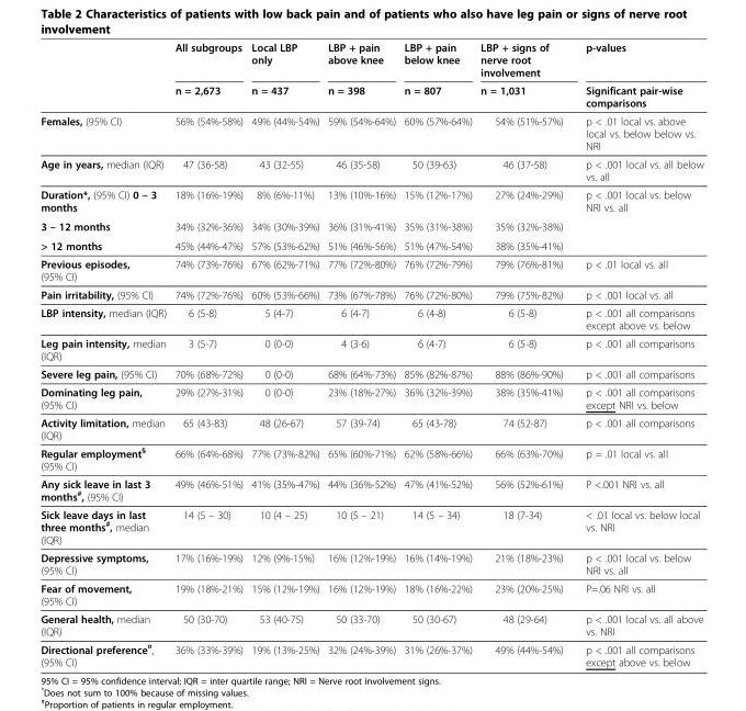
<table><thead><tr><td rowspan="2"></td><td rowspan="2">All subgroups n = 2,673</td><td rowspan="2">Local LBP only n = 437</td><td rowspan="2">LBP + pain above knee n = 398</td><td rowspan="2">LBP + pain below knee n = 807</td><td rowspan="2">LBP + signs of nerve root involvement n = 1,031</td><td rowspan="2">p-values Significant pair-wise comparisons</td></tr><tr></tr></thead><tbody><tr><td>Females, (95% CI)</td><td>56% (54%-58%)</td><td>49% (44%-54%)</td><td>59% (54%-64%)</td><td>60% (57%-64%)</td><td>54% (51%-57%)</td><td>p &lt; .01 local vs. above local vs. below below vs. NRI</td></tr><tr><td>Age in years, median (IQR)</td><td>47 (36-58)</td><td>43 (32-55)</td><td>46 (35-58)</td><td>50 (39-63)</td><td>46 (37-58)</td><td>p &lt; .001 local vs. all below vs. all</td></tr><tr><td>Duration*, (95% CI) 0 – 3 months</td><td>18% (16%-19%)</td><td>8% (6%-11%)</td><td>13% (10%-16%)</td><td>15% (12%-17%)</td><td>27% (24%-29%)</td><td>p &lt; .001 local vs. below NRI vs. all</td></tr><tr><td>3 – 12 months</td><td>34% (32%-36%)</td><td>34% (30%-39%)</td><td>36% (31%-41%)</td><td>35% (31%-38%)</td><td>35% (32%-38%)</td><td></td></tr><tr><td>&gt; 12 months</td><td>45% (44%-47%)</td><td>57% (53%-62%)</td><td>51% (46%-56%)</td><td>51% (47%-54%)</td><td>38% (35%-41%)</td><td></td></tr><tr><td>Previous episodes, (95% CI)</td><td>74% (73%-76%)</td><td>67% (62%-71%)</td><td>77% (72%-80%)</td><td>76% (72%-79%)</td><td>79% (76%-81%)</td><td>p &lt; .01 local vs. all</td></tr><tr><td>Pain irritability, (95% CI)</td><td>74% (72%-76%)</td><td>60% (53%-66%)</td><td>73% (67%-78%)</td><td>76% (72%-80%)</td><td>79% (75%-82%)</td><td>p &lt; .001 local vs. all</td></tr><tr><td>LBP intensity, median (IQR)</td><td>6 (5-8)</td><td>5 (4-7)</td><td>6 (4-7)</td><td>6 (4-8)</td><td>6 (5-8)</td><td>p &lt; .001 all comparisons except above vs. below</td></tr><tr><td>Leg pain intensity, median (IQR)</td><td>3 (5-7)</td><td>0 (0-0)</td><td>4 (3-6)</td><td>6 (4-7)</td><td>6 (5-8)</td><td>p &lt; .001 all comparisons</td></tr><tr><td>Severe leg pain, (95% CI)</td><td>70% (68%-72%)</td><td>0 (0-0)</td><td>68% (64%-73%)</td><td>85% (82%-87%)</td><td>88% (86%-90%)</td><td>p &lt; .001 all comparisons</td></tr><tr><td>Dominating leg pain, (95% CI)</td><td>29% (27%-31%)</td><td>0 (0-0)</td><td>23% (18%-27%)</td><td>36% (32%-39%)</td><td>38% (35%-41%)</td><td>p &lt; .001 all comparisons except NRI vs. below</td></tr><tr><td>Activity limitation, median (IQR)</td><td>65 (43-83)</td><td>48 (26-67)</td><td>57 (39-74)</td><td>65 (43-78)</td><td>74 (52-87)</td><td>p &lt; .001 all comparisons</td></tr><tr><td>Regular employment<sup>§</sup> (95% CI)</td><td>66% (64%-68%)</td><td>77% (73%-82%)</td><td>65% (60%-71%)</td><td>62% (58%-66%)</td><td>66% (63%-70%)</td><td>p = .01 local vs. all</td></tr><tr><td>Any sick leave in last 3 months<sup>#</sup>, (95% CI)</td><td>49% (46%-51%)</td><td>41% (35%-47%)</td><td>44% (36%-52%)</td><td>47% (41%-52%)</td><td>56% (52%-61%)</td><td>P &lt;.001 NRI vs. all</td></tr><tr><td>Sick leave days in last three months<sup>#</sup>, median (IQR)</td><td>14 (5 – 30)</td><td>10 (4 – 25)</td><td>10 (5 – 21)</td><td>14 (5 – 34)</td><td>18 (7-34)</td><td>&lt; .01 local vs. below local vs. NRI</td></tr><tr><td>Depressive symptoms, (95% CI)</td><td>17% (16%-19%)</td><td>12% (9%-15%)</td><td>16% (12%-19%)</td><td>16% (14%-19%)</td><td>21% (18%-23%)</td><td>p &lt; .001 local vs. below NRI vs. all</td></tr><tr><td>Fear of movement, (95% CI)</td><td>19% (18%-21%)</td><td>15% (12%-19%)</td><td>16% (12%-19%)</td><td>18% (16%-22%)</td><td>23% (20%-25%)</td><td>P=.06 NRI vs. all</td></tr><tr><td>General health, median (IQR)</td><td>50 (30-70)</td><td>53 (40-75)</td><td>50 (33-70)</td><td>50 (30-67)</td><td>48 (29-64)</td><td>p &lt; .001 local vs. all above vs. NRI</td></tr><tr><td>Directional preference¤, (95% CI)</td><td>36% (33%-39%)</td><td>19% (13%-25%)</td><td>32% (24%-39%)</td><td>31% (26%-37%)</td><td>49% (44%-54%)</td><td>p &lt; .001 all comparisons except above vs. below</td></tr></tbody></table>